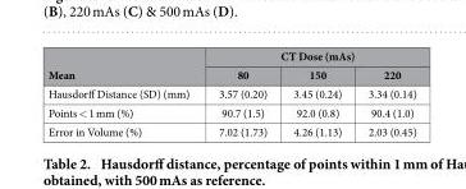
<table><thead><tr><td rowspan="2">Mean</td><td colspan="3">CT Dose (mAs)</td></tr><tr><td>80</td><td>150</td><td>220</td></tr></thead><tbody><tr><td>Hausdorff Distance (SD) (mm)</td><td>3.57 (0.20)</td><td>3.45 (0.24)</td><td>3.34 (0.14)</td></tr><tr><td>Points &lt; 1 mm (%)</td><td>90.7 (1.5)</td><td>92.0 (0.8)</td><td>90.4 (1.0)</td></tr><tr><td>Error in Volume (%)</td><td>7.02 (1.73)</td><td>4.26 (1.13)</td><td>2.03 (0.45)</td></tr></tbody></table>